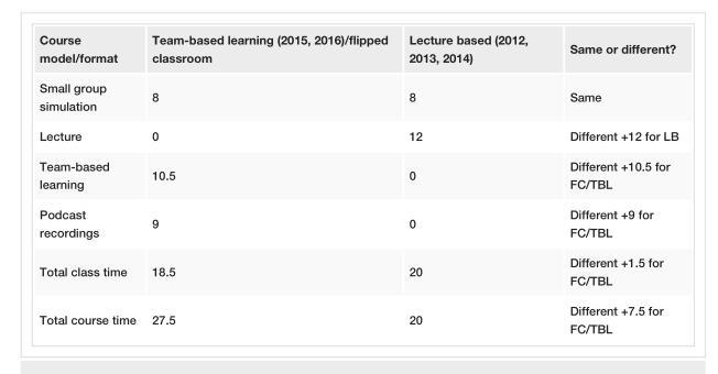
<table><tbody><tr><td>Course model/format</td><td>Team-based learning (2015, 2016)/flipped classroom</td><td>Lecture based (2012, 2013, 2014)</td><td>Same or different?</td></tr><tr><td>Small group simulation</td><td>8</td><td>8</td><td>Same</td></tr><tr><td>Lecture</td><td>0</td><td>12</td><td>Different +12 for LB</td></tr><tr><td>Team-based learning</td><td>10.5</td><td>0</td><td>Different +10.5 for FC/TBL</td></tr><tr><td>Podcast recordings</td><td>9</td><td>0</td><td>Different +9 for FC/TBL</td></tr><tr><td>Total class time</td><td>18.5</td><td>20</td><td>Different +1.5 for FC/TBL</td></tr><tr><td>Total course time</td><td>27.5</td><td>20</td><td>Different +7.5 for FC/TBL</td></tr></tbody></table>